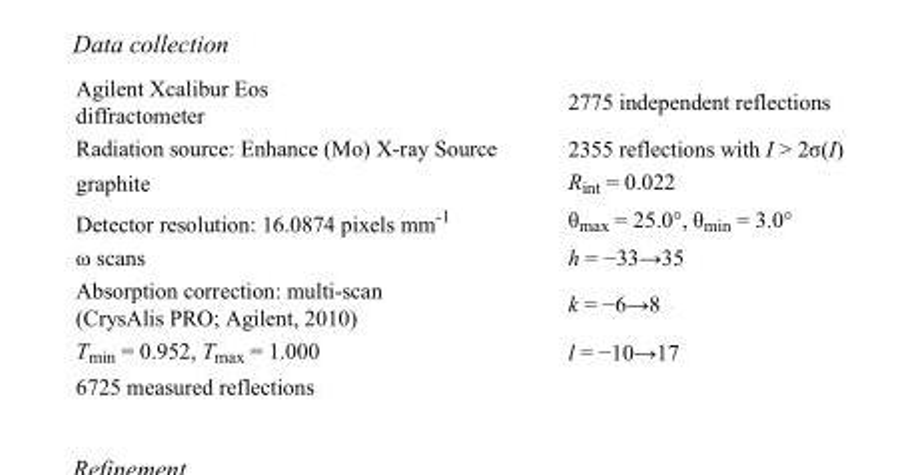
<table><tbody><tr><td>Agilent Xcalibur Eos diffractometer</td><td>2775 independent reflections</td></tr><tr><td>Radiation source: Enhance (Mo) X-ray Source</td><td>2355 reflections with I &gt; 2σ(I)</td></tr><tr><td>graphite</td><td>R<sub>int</sub> = 0.022</td></tr><tr><td>Detector resolution: 16.0874 pixels mm<sup>-1</sup></td><td>θ<sub>max</sub> = 25.0°, θ<sub>min</sub> = 3.0°</td></tr><tr><td>ω scans</td><td>h = −33→35</td></tr><tr><td>Absorption correction: multi-scan (CrysAlis PRO; Agilent, 2010)</td><td>k = −6→8</td></tr><tr><td>T<sub>min</sub> = 0.952, T<sub>max</sub> = 1.000</td><td>l = −10→17</td></tr><tr><td>6725 measured reflections</td><td></td></tr></tbody></table>